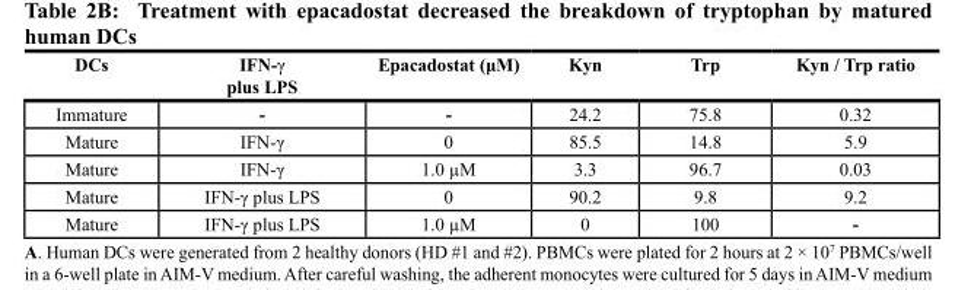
<table><thead><tr><td>DCs</td><td>IFN-γ plus LPS</td><td>Epacadostat (μM)</td><td>Kyn</td><td>Trp</td><td>Kyn / Trp ratio</td></tr></thead><tbody><tr><td>Immature</td><td>-</td><td>-</td><td>24.2</td><td>75.8</td><td>0.32</td></tr><tr><td>Mature</td><td>IFN-γ</td><td>0</td><td>85.5</td><td>14.8</td><td>5.9</td></tr><tr><td>Mature</td><td>IFN-γ</td><td>1.0 µM</td><td>3.3</td><td>96.7</td><td>0.03</td></tr><tr><td>Mature</td><td>IFN-γ plus LPS</td><td>0</td><td>90.2</td><td>9.8</td><td>9.2</td></tr><tr><td>Mature</td><td>IFN-γ plus LPS</td><td>1.0 µM</td><td>0</td><td>100</td><td>-</td></tr></tbody></table>